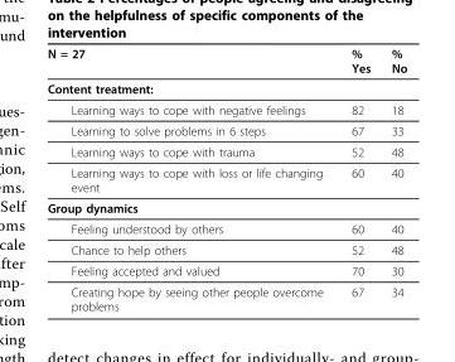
<table><thead><tr><td>N = 27</td><td>% Yes</td><td>% No</td></tr></thead><tbody><tr><td colspan="3">Content treatment:</td></tr><tr><td>Learning ways to cope with negative feelings</td><td>82</td><td>18</td></tr><tr><td>Learning to solve problems in 6 steps</td><td>67</td><td>33</td></tr><tr><td>Learning ways to cope with trauma</td><td>52</td><td>48</td></tr><tr><td>Learning ways to cope with loss or life changing event</td><td>60</td><td>40</td></tr><tr><td colspan="3">Group dynamics</td></tr><tr><td>Feeling understood by others</td><td>60</td><td>40</td></tr><tr><td>Chance to help others</td><td>52</td><td>48</td></tr><tr><td>Feeling accepted and valued</td><td>70</td><td>30</td></tr><tr><td>Creating hope by seeing other people overcome problems</td><td>67</td><td>34</td></tr></tbody></table>